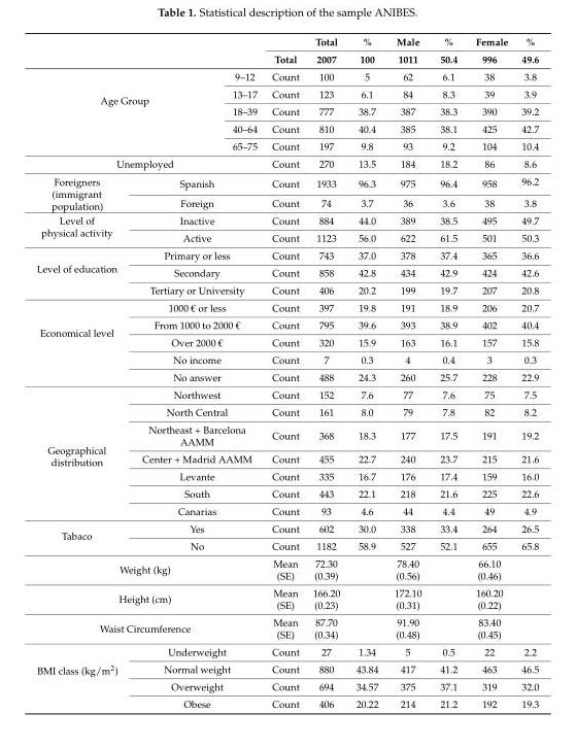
<table><thead><tr><td rowspan="2"></td><td rowspan="2"></td><td rowspan="2"></td><td rowspan="2">Total</td><td rowspan="2">Total 2007</td><td rowspan="2">% 100</td><td rowspan="2">Male 1011</td><td rowspan="2">% 50.4</td><td rowspan="2">Female 996</td><td rowspan="2">% 49.6</td></tr><tr></tr></thead><tbody><tr><td rowspan="5" colspan="2">Age Group</td><td>9–12</td><td>Count</td><td>100</td><td>5</td><td>62</td><td>6.1</td><td>38</td><td>3.8</td></tr><tr><td>13–17</td><td>Count</td><td>123</td><td>6.1</td><td>84</td><td>8.3</td><td>39</td><td>3.9</td></tr><tr><td>18–39</td><td>Count</td><td>777</td><td>38.7</td><td>387</td><td>38.3</td><td>390</td><td>39.2</td></tr><tr><td>40–64</td><td>Count</td><td>810</td><td>40.4</td><td>385</td><td>38.1</td><td>425</td><td>42.7</td></tr><tr><td>65–75</td><td>Count</td><td>197</td><td>9.8</td><td>93</td><td>9.2</td><td>104</td><td>10.4</td></tr><tr><td colspan="3">Unemployed</td><td>Count</td><td>270</td><td>13.5</td><td>184</td><td>18.2</td><td>86</td><td>8.6</td></tr><tr><td rowspan="2">Foreigners (immigrant population)</td><td colspan="2">Spanish</td><td>Count</td><td>1933</td><td>96.3</td><td>975</td><td>96.4</td><td>958</td><td>96.2</td></tr><tr><td colspan="2">Foreign</td><td>Count</td><td>74</td><td>3.7</td><td>36</td><td>3.6</td><td>38</td><td>3.8</td></tr><tr><td rowspan="2">Level of physical activity</td><td colspan="2">Inactive</td><td>Count</td><td>884</td><td>44.0</td><td>389</td><td>38.5</td><td>495</td><td>49.7</td></tr><tr><td colspan="2">Active</td><td>Count</td><td>1123</td><td>56.0</td><td>622</td><td>61.5</td><td>501</td><td>50.3</td></tr><tr><td rowspan="3">Level of education</td><td colspan="2">Primary or less</td><td>Count</td><td>743</td><td>37.0</td><td>378</td><td>37.4</td><td>365</td><td>36.6</td></tr><tr><td colspan="2">Secondary</td><td>Count</td><td>858</td><td>42.8</td><td>434</td><td>42.9</td><td>424</td><td>42.6</td></tr><tr><td colspan="2">Tertiary or University</td><td>Count</td><td>406</td><td>20.2</td><td>199</td><td>19.7</td><td>207</td><td>20.8</td></tr><tr><td rowspan="5">Economical level</td><td colspan="2">1000 € or less</td><td>Count</td><td>397</td><td>19.8</td><td>191</td><td>18.9</td><td>206</td><td>20.7</td></tr><tr><td colspan="2">From 1000 to 2000 €</td><td>Count</td><td>795</td><td>39.6</td><td>393</td><td>38.9</td><td>402</td><td>40.4</td></tr><tr><td colspan="2">Over 2000 €</td><td>Count</td><td>320</td><td>15.9</td><td>163</td><td>16.1</td><td>157</td><td>15.8</td></tr><tr><td colspan="2">No income</td><td>Count</td><td>7</td><td>0.3</td><td>4</td><td>0.4</td><td>3</td><td>0.3</td></tr><tr><td colspan="2">No answer</td><td>Count</td><td>488</td><td>24.3</td><td>260</td><td>25.7</td><td>228</td><td>22.9</td></tr><tr><td rowspan="7">Geographical distribution</td><td colspan="2">Northwest</td><td>Count</td><td>152</td><td>7.6</td><td>77</td><td>7.6</td><td>75</td><td>7.5</td></tr><tr><td colspan="2">North Central</td><td>Count</td><td>161</td><td>8.0</td><td>79</td><td>7.8</td><td>82</td><td>8.2</td></tr><tr><td colspan="2">Northeast + Barcelona AAMM</td><td>Count</td><td>368</td><td>18.3</td><td>177</td><td>17.5</td><td>191</td><td>19.2</td></tr><tr><td colspan="2">Center + Madrid AAMM</td><td>Count</td><td>455</td><td>22.7</td><td>240</td><td>23.7</td><td>215</td><td>21.6</td></tr><tr><td colspan="2">Levante</td><td>Count</td><td>335</td><td>16.7</td><td>176</td><td>17.4</td><td>159</td><td>16.0</td></tr><tr><td colspan="2">South</td><td>Count</td><td>443</td><td>22.1</td><td>218</td><td>21.6</td><td>225</td><td>22.6</td></tr><tr><td colspan="2">Canarias</td><td>Count</td><td>93</td><td>4.6</td><td>44</td><td>4.4</td><td>49</td><td>4.9</td></tr><tr><td rowspan="2">Tabaco</td><td colspan="2">Yes</td><td>Count</td><td>602</td><td>30.0</td><td>338</td><td>33.4</td><td>264</td><td>26.5</td></tr><tr><td colspan="2">No</td><td>Count</td><td>1182</td><td>58.9</td><td>527</td><td>52.1</td><td>655</td><td>65.8</td></tr><tr><td colspan="3">Weight (kg)</td><td>Mean (SE)</td><td>72.30 (0.39)</td><td></td><td>78.40 (0.56)</td><td></td><td>66.10 (0.46)</td><td></td></tr><tr><td colspan="3">Height (cm)</td><td>Mean (SE)</td><td>166.20 (0.23)</td><td></td><td>172.10 (0.31)</td><td></td><td>160.20 (0.22)</td><td></td></tr><tr><td colspan="3">Waist Circumference</td><td>Mean (SE)</td><td>87.70 (0.34)</td><td></td><td>91.90 (0.48)</td><td></td><td>83.40 (0.45)</td><td></td></tr><tr><td rowspan="4">BMI class (kg/m<sup>2</sup>)</td><td colspan="2">Underweight</td><td>Count</td><td>27</td><td>1.34</td><td>5</td><td>0.5</td><td>22</td><td>2.2</td></tr><tr><td colspan="2">Normal weight</td><td>Count</td><td>880</td><td>43.84</td><td>417</td><td>41.2</td><td>463</td><td>46.5</td></tr><tr><td colspan="2">Overweight</td><td>Count</td><td>694</td><td>34.57</td><td>375</td><td>37.1</td><td>319</td><td>32.0</td></tr><tr><td colspan="2">Obese</td><td>Count</td><td>406</td><td>20.22</td><td>214</td><td>21.2</td><td>192</td><td>19.3</td></tr></tbody></table>